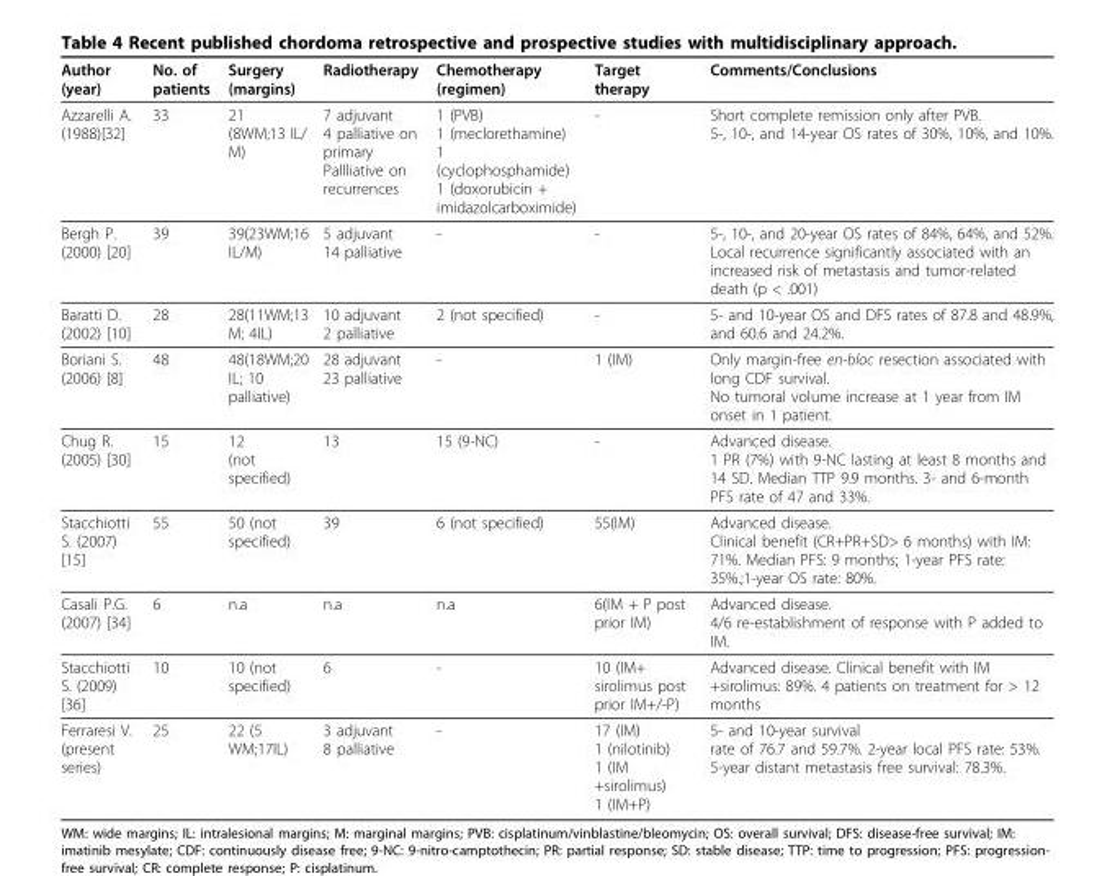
<table><thead><tr><td>Author (year)</td><td>No. of patients</td><td>Surgery (margins)</td><td>Radiotherapy</td><td>Chemotherapy (regimen)</td><td>Target therapy</td><td>Comments/Conclusions</td></tr></thead><tbody><tr><td>Azzarelli A. (1988)[32]</td><td>33</td><td>21 (8WM;13 IL/ M)</td><td>7 adjuvant 4 palliative on primary Pallliative on recurrences</td><td>1 (PVB) 1 (meclorethamine) 1 (cyclophosphamide) 1 (doxorubicin + imidazolcarboximide)</td><td>-</td><td>Short complete remission only after PVB. 5-, 10-, and 14-year OS rates of 30%, 10%, and 10%.</td></tr><tr><td>Bergh P. (2000) [20]</td><td>39</td><td>39(23WM;16 IL/M)</td><td>5 adjuvant 14 palliative</td><td>-</td><td>-</td><td>5-, 10-, and 20-year OS rates of 84%, 64%, and 52%. Local recurrence significantly associated with an increased risk of metastasis and tumor-related death (p &lt; .001)</td></tr><tr><td>Baratti D. (2002) [10]</td><td>28</td><td>28(11WM;13 M; 4IL)</td><td>10 adjuvant 2 palliative</td><td>2 (not specified)</td><td>-</td><td>5- and 10-year OS and DFS rates of 87.8 and 48.9%, and 60.6 and 24.2%.</td></tr><tr><td>Boriani S. (2006) [8]</td><td>48</td><td>48(18WM;20 IL; 10 palliative)</td><td>28 adjuvant 23 palliative</td><td>-</td><td>1 (IM)</td><td>Only margin-free en-bloc resection associated with long CDF survival. No tumoral volume increase at 1 year from IM onset in 1 patient.</td></tr><tr><td>Chug R. (2005) [30]</td><td>15</td><td>12 (not specified)</td><td>13</td><td>15 (9-NC)</td><td>-</td><td>Advanced disease. 1 PR (7%) with 9-NC lasting at least 8 months and 14 SD. Median TTP 9.9 months. 3- and 6-month PFS rate of 47 and 33%.</td></tr><tr><td>Stacchiotti S. (2007) [15]</td><td>55</td><td>50 (not specified)</td><td>39</td><td>6 (not specified)</td><td>55(IM)</td><td>Advanced disease. Clinical benefit (CR+PR+SD&gt; 6 months) with IM: 71%. Median PFS: 9 months; 1-year PFS rate: 35%.;1-year OS rate: 80%.</td></tr><tr><td>Casali P.G. (2007) [34]</td><td>6</td><td>n.a</td><td>n.a</td><td>n.a</td><td>6(IM + P post prior IM)</td><td>Advanced disease. 4/6 re-establishment of response with P added to IM.</td></tr><tr><td>Stacchiotti S. (2009) [36]</td><td>10</td><td>10 (not specified)</td><td>6</td><td>-</td><td>10 (IM+ sirolimus post prior IM+/-P)</td><td>Advanced disease. Clinical benefit with IM +sirolimus: 89%. 4 patients on treatment for &gt; 12 months</td></tr><tr><td>Ferraresi V. (present series)</td><td>25</td><td>22 (5 WM;17IL)</td><td>3 adjuvant 8 palliative</td><td>-</td><td>17 (IM) 1 (nilotinib) 1 (IM +sirolimus) 1 (IM+P)</td><td>5- and 10-year survival rate of 76.7 and 59.7%. 2-year local PFS rate: 53%. 5-year distant metastasis free survival: 78.3%.</td></tr></tbody></table>